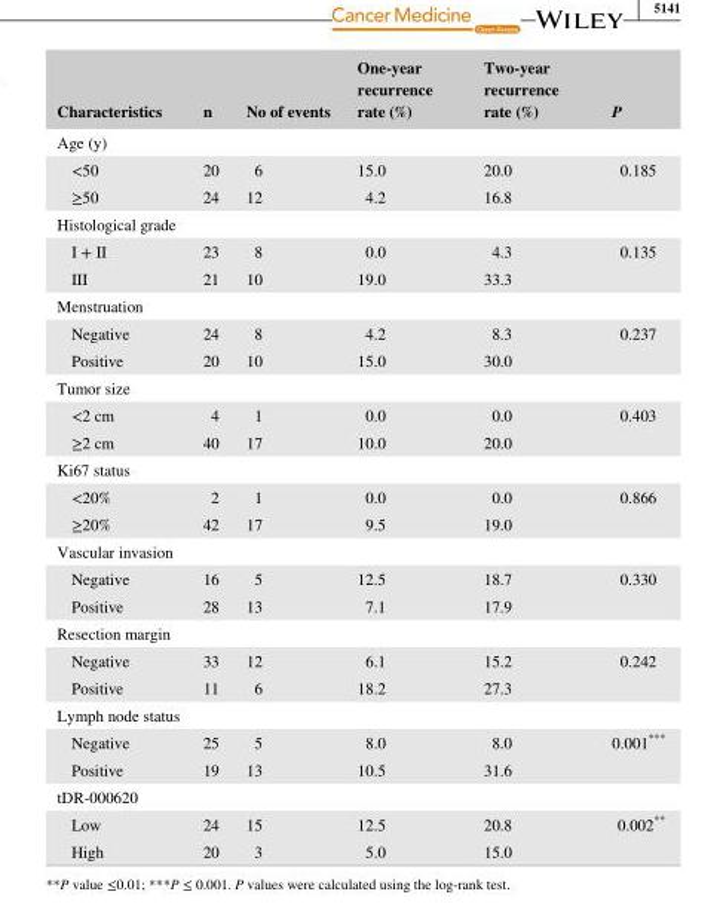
<table><thead><tr><td>Characteristics</td><td>n</td><td>No of events</td><td>One- year recurrence rate (%)</td><td>Two- year recurrence rate (%)</td><td>P</td></tr></thead><tbody><tr><td colspan="6">Age (y)</td></tr><tr><td>&lt;50</td><td>20</td><td>6</td><td>15.0</td><td>20.0</td><td rowspan="2">0.185</td></tr><tr><td>≥50</td><td>24</td><td>12</td><td>4.2</td><td>16.8</td></tr><tr><td colspan="6">Histological grade</td></tr><tr><td>I + II</td><td>23</td><td>8</td><td>0.0</td><td>4.3</td><td rowspan="2">0.135</td></tr><tr><td>III</td><td>21</td><td>10</td><td>19.0</td><td>33.3</td></tr><tr><td colspan="6">Menstruation</td></tr><tr><td>Negative</td><td>24</td><td>8</td><td>4.2</td><td>8.3</td><td rowspan="2">0.237</td></tr><tr><td>Positive</td><td>20</td><td>10</td><td>15.0</td><td>30.0</td></tr><tr><td colspan="6">Tumor size</td></tr><tr><td>&lt;2 cm</td><td>4</td><td>1</td><td>0.0</td><td>0.0</td><td rowspan="2">0.403</td></tr><tr><td>≥2 cm</td><td>40</td><td>17</td><td>10.0</td><td>20.0</td></tr><tr><td colspan="6">Ki67 status</td></tr><tr><td>&lt;20%</td><td>2</td><td>1</td><td>0.0</td><td>0.0</td><td rowspan="2">0.866</td></tr><tr><td>≥20%</td><td>42</td><td>17</td><td>9.5</td><td>19.0</td></tr><tr><td colspan="6">Vascular invasion</td></tr><tr><td>Negative</td><td>16</td><td>5</td><td>12.5</td><td>18.7</td><td rowspan="2">0.330</td></tr><tr><td>Positive</td><td>28</td><td>13</td><td>7.1</td><td>17.9</td></tr><tr><td colspan="6">Resection margin</td></tr><tr><td>Negative</td><td>33</td><td>12</td><td>6.1</td><td>15.2</td><td rowspan="2">0.242</td></tr><tr><td>Positive</td><td>11</td><td>6</td><td>18.2</td><td>27.3</td></tr><tr><td colspan="6">Lymph node status</td></tr><tr><td>Negative</td><td>25</td><td>5</td><td>8.0</td><td>8.0</td><td rowspan="2">0.001***</td></tr><tr><td>Positive</td><td>19</td><td>13</td><td>10.5</td><td>31.6</td></tr><tr><td colspan="6">tDR- 000620</td></tr><tr><td>Low</td><td>24</td><td>15</td><td>12.5</td><td>20.8</td><td rowspan="2">0.002**</td></tr><tr><td>High</td><td>20</td><td>3</td><td>5.0</td><td>15.0</td></tr></tbody></table>